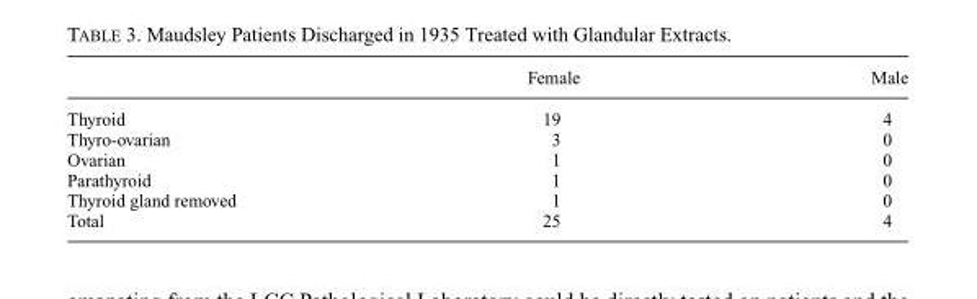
<table><thead><tr><td></td><td>Female</td><td>Male</td></tr></thead><tbody><tr><td>Thyroid</td><td>19</td><td>4</td></tr><tr><td>Thyro-ovarian</td><td>3</td><td>0</td></tr><tr><td>Ovarian</td><td>1</td><td>0</td></tr><tr><td>Parathyroid</td><td>1</td><td>0</td></tr><tr><td>Thyroid gland removed</td><td>1</td><td>0</td></tr><tr><td>Total</td><td>25</td><td>4</td></tr></tbody></table>